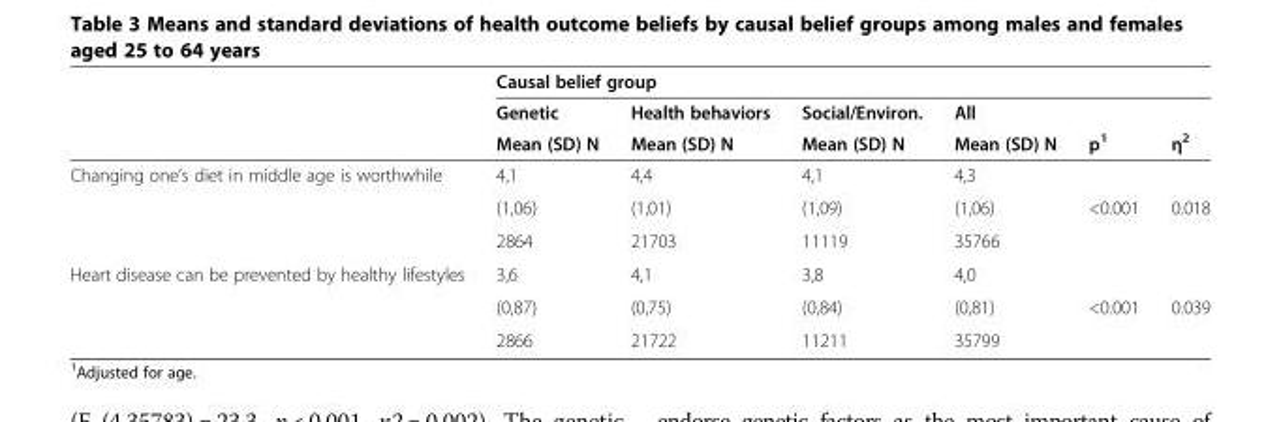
<table><thead><tr><td rowspan="3"></td><td colspan="6">Causal belief group</td></tr><tr><td rowspan="2">Genetic Mean (SD) N</td><td rowspan="2">Health behaviors Mean (SD) N</td><td rowspan="2">Social/Environ. Mean (SD) N</td><td rowspan="2">All Mean (SD) N</td><td rowspan="2">p<sup>1</sup></td><td rowspan="2">η<sup>2</sup></td></tr><tr></tr></thead><tbody><tr><td rowspan="3">Changing one’s diet in middle age is worthwhile</td><td>4,1</td><td>4,4</td><td>4,1</td><td>4,3</td><td></td><td></td></tr><tr><td>(1,06)</td><td>(1,01)</td><td>(1,09)</td><td>(1,06)</td><td>&lt;0.001</td><td>0.018</td></tr><tr><td>2864</td><td>21703</td><td>11119</td><td>35766</td><td></td><td></td></tr><tr><td rowspan="3">Heart disease can be prevented by healthy lifestyles</td><td>3,6</td><td>4,1</td><td>3,8</td><td>4,0</td><td></td><td></td></tr><tr><td>(0,87)</td><td>(0,75)</td><td>(0,84)</td><td>(0,81)</td><td>&lt;0.001</td><td>0.039</td></tr><tr><td>2866</td><td>21722</td><td>11211</td><td>35799</td><td></td><td></td></tr></tbody></table>